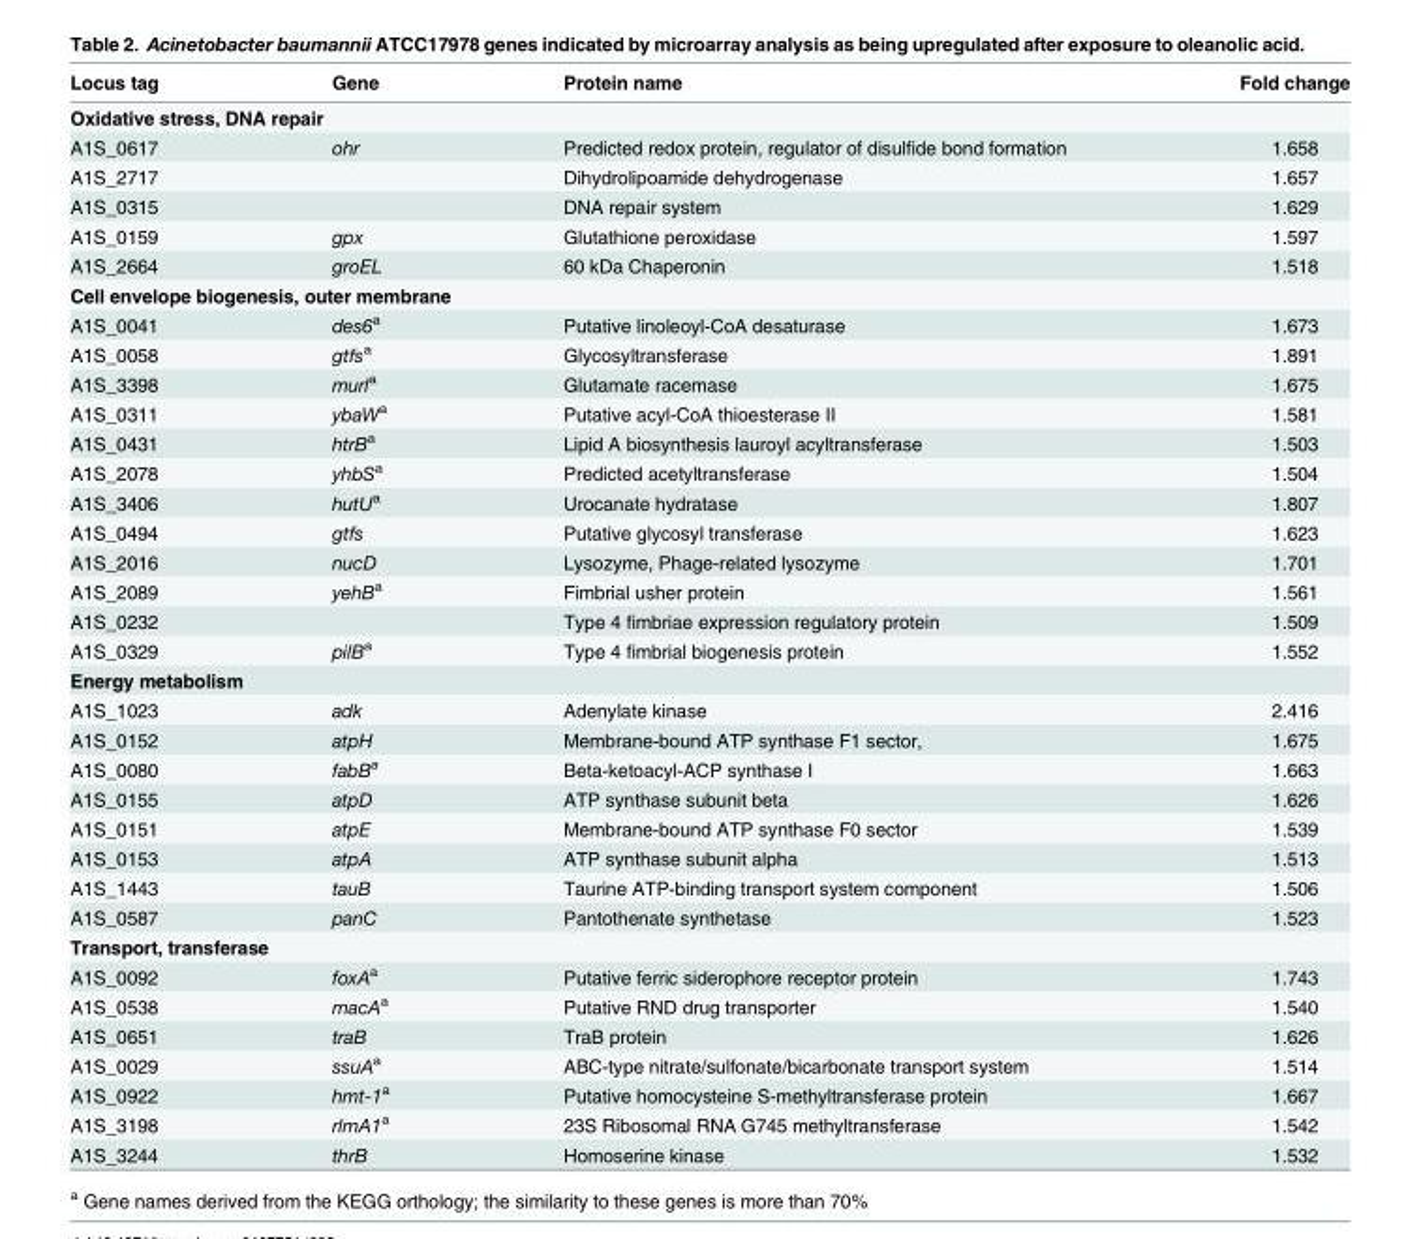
<table><thead><tr><td>Locus tag</td><td>Gene</td><td>Protein name</td><td>Fold change</td></tr></thead><tbody><tr><td colspan="4">Oxidative stress, DNA repair</td></tr><tr><td>A1S_0617</td><td>ohr</td><td>Predicted redox protein, regulator of disulfide bond formation</td><td>1.658</td></tr><tr><td>A1S_2717</td><td></td><td>Dihydrolipoamide dehydrogenase</td><td>1.657</td></tr><tr><td>A1S_0315</td><td></td><td>DNA repair system</td><td>1.629</td></tr><tr><td>A1S_0159</td><td>gpx</td><td>Glutathione peroxidase</td><td>1.597</td></tr><tr><td>A1S_2664</td><td>groEL</td><td>60 kDa Chaperonin</td><td>1.518</td></tr><tr><td colspan="4">Cell envelope biogenesis, outer membrane</td></tr><tr><td>A1S_0041</td><td>des6<sup>a</sup></td><td>Putative linoleoyl-CoA desaturase</td><td>1.673</td></tr><tr><td>A1S_0058</td><td>gtfs<sup>a</sup></td><td>Glycosyltransferase</td><td>1.891</td></tr><tr><td>A1S_3398</td><td>murl<sup>a</sup></td><td>Glutamate racemase</td><td>1.675</td></tr><tr><td>A1S_0311</td><td>ybaW<sup>a</sup></td><td>Putative acyl-CoA thioesterase II</td><td>1.581</td></tr><tr><td>A1S_0431</td><td>htrB<sup>a</sup></td><td>Lipid A biosynthesis lauroyl acyltransferase</td><td>1.503</td></tr><tr><td>A1S_2078</td><td>yhbS<sup>a</sup></td><td>Predicted acetyltransferase</td><td>1.504</td></tr><tr><td>A1S_3406</td><td>hutU<sup>a</sup></td><td>Urocanate hydratase</td><td>1.807</td></tr><tr><td>A1S_0494</td><td>gtfs</td><td>Putative glycosyl transferase</td><td>1.623</td></tr><tr><td>A1S_2016</td><td>nucD</td><td>Lysozyme, Phage-related lysozyme</td><td>1.701</td></tr><tr><td>A1S_2089</td><td>yehB<sup>a</sup></td><td>Fimbrial usher protein</td><td>1.561</td></tr><tr><td>A1S_0232</td><td></td><td>Type 4 fimbriae expression regulatory protein</td><td>1.509</td></tr><tr><td>A1S_0329</td><td>pilB<sup>a</sup></td><td>Type 4 fimbrial biogenesis protein</td><td>1.552</td></tr><tr><td colspan="4">Energy metabolism</td></tr><tr><td>A1S_1023</td><td>adk</td><td>Adenylate kinase</td><td>2.416</td></tr><tr><td>A1S_0152</td><td>atpH</td><td>Membrane-bound ATP synthase F1 sector,</td><td>1.675</td></tr><tr><td>A1S_0080</td><td>fabB<sup>a</sup></td><td>Beta-ketoacyl-ACP synthase I</td><td>1.663</td></tr><tr><td>A1S_0155</td><td>atpD</td><td>ATP synthase subunit beta</td><td>1.626</td></tr><tr><td>A1S_0151</td><td>atpE</td><td>Membrane-bound ATP synthase F0 sector</td><td>1.539</td></tr><tr><td>A1S_0153</td><td>atpA</td><td>ATP synthase subunit alpha</td><td>1.513</td></tr><tr><td>A1S_1443</td><td>tauB</td><td>Taurine ATP-binding transport system component</td><td>1.506</td></tr><tr><td>A1S_0587</td><td>panC</td><td>Pantothenate synthetase</td><td>1.523</td></tr><tr><td colspan="4">Transport, transferase</td></tr><tr><td>A1S_0092</td><td>foxA<sup>a</sup></td><td>Putative ferric siderophore receptor protein</td><td>1.743</td></tr><tr><td>A1S_0538</td><td>macA<sup>a</sup></td><td>Putative RND drug transporter</td><td>1.540</td></tr><tr><td>A1S_0651</td><td>traB</td><td>TraB protein</td><td>1.626</td></tr><tr><td>A1S_0029</td><td>ssuA<sup>a</sup></td><td>ABC-type nitrate/sulfonate/bicarbonate transport system</td><td>1.514</td></tr><tr><td>A1S_0922</td><td>hmt-1<sup>a</sup></td><td>Putative homocysteine S-methyltransferase protein</td><td>1.667</td></tr><tr><td>A1S_3198</td><td>rlmA1<sup>a</sup></td><td>23S Ribosomal RNA G745 methyltransferase</td><td>1.542</td></tr><tr><td>A1S_3244</td><td>thrB</td><td>Homoserine kinase</td><td>1.532</td></tr></tbody></table>